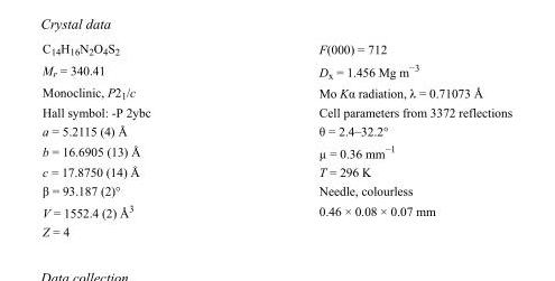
<table><tbody><tr><td>C<sub>14</sub>H<sub>16</sub>N<sub>2</sub>O<sub>4</sub>S<sub>2</sub></td><td>F(000) = 712</td></tr><tr><td>M<sub>r</sub> = 340.41</td><td>D<sub>x</sub> = 1.456 Mg m<sup>−3</sup></td></tr><tr><td>Monoclinic, P2<sub>1</sub>/c</td><td>Mo Kα radiation, λ = 0.71073 Å</td></tr><tr><td>Hall symbol: -P 2ybc</td><td>Cell parameters from 3372 reflections</td></tr><tr><td>a = 5.2115 (4) Å</td><td>θ = 2.4–32.2°</td></tr><tr><td>b = 16.6905 (13) Å</td><td>µ = 0.36 mm<sup>−1</sup></td></tr><tr><td>c = 17.8750 (14) Å</td><td>T = 296 K</td></tr><tr><td>β = 93.187 (2)°</td><td>Needle, colourless</td></tr><tr><td>V = 1552.4 (2) Å<sup>3</sup></td><td>0.46 × 0.08 × 0.07 mm</td></tr><tr><td>Z = 4</td><td></td></tr></tbody></table>